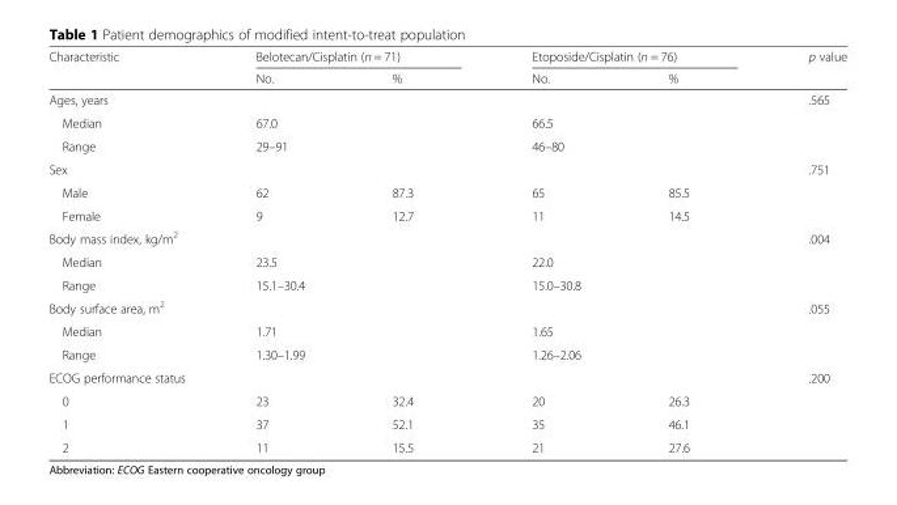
<table><thead><tr><td rowspan="2">Characteristic</td><td colspan="2">Belotecan/Cisplatin (n = 71)</td><td colspan="2">Etoposide/Cisplatin (n = 76)</td><td rowspan="2">p value</td></tr><tr><td>No.</td><td>%</td><td>No.</td><td>%</td></tr></thead><tbody><tr><td>Ages, years</td><td colspan="2"></td><td colspan="2"></td><td>.565</td></tr><tr><td>Median</td><td colspan="2">67.0</td><td colspan="2">66.5</td><td></td></tr><tr><td>Range</td><td colspan="2">29–91</td><td colspan="2">46–80</td><td></td></tr><tr><td>Sex</td><td></td><td></td><td></td><td></td><td>.751</td></tr><tr><td>Male</td><td>62</td><td>87.3</td><td>65</td><td>85.5</td><td></td></tr><tr><td>Female</td><td>9</td><td>12.7</td><td>11</td><td>14.5</td><td></td></tr><tr><td>Body mass index, kg/m<sup>2</sup></td><td colspan="2"></td><td colspan="2"></td><td>.004</td></tr><tr><td>Median</td><td colspan="2">23.5</td><td colspan="2">22.0</td><td></td></tr><tr><td>Range</td><td colspan="2">15.1–30.4</td><td colspan="2">15.0–30.8</td><td></td></tr><tr><td>Body surface area, m<sup>2</sup></td><td colspan="2"></td><td colspan="2"></td><td>.055</td></tr><tr><td>Median</td><td colspan="2">1.71</td><td colspan="2">1.65</td><td></td></tr><tr><td>Range</td><td colspan="2">1.30–1.99</td><td colspan="2">1.26–2.06</td><td></td></tr><tr><td>ECOG performance status</td><td></td><td></td><td></td><td></td><td>.200</td></tr><tr><td>0</td><td>23</td><td>32.4</td><td>20</td><td>26.3</td><td></td></tr><tr><td>1</td><td>37</td><td>52.1</td><td>35</td><td>46.1</td><td></td></tr><tr><td>2</td><td>11</td><td>15.5</td><td>21</td><td>27.6</td><td></td></tr></tbody></table>